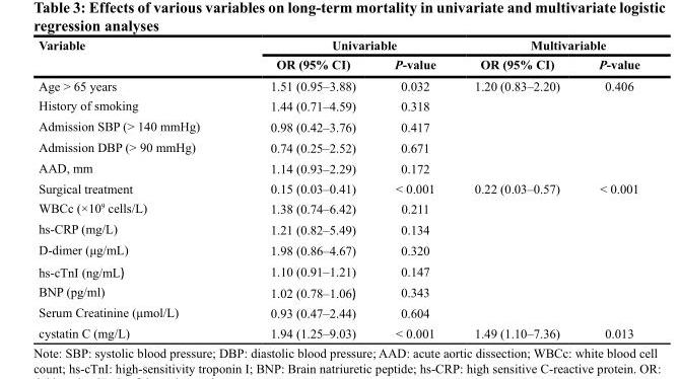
<table><thead><tr><td rowspan="2">Variable</td><td colspan="2">Univariable</td><td colspan="2">Multivariable</td></tr><tr><td>OR (95% CI)</td><td>P-value</td><td>OR (95% CI)</td><td>P-value</td></tr></thead><tbody><tr><td>Age &gt; 65 years</td><td>1.51 (0.95–3.88)</td><td>0.032</td><td>1.20 (0.83–2.20)</td><td>0.406</td></tr><tr><td>History of smoking</td><td>1.44 (0.71–4.59)</td><td>0.318</td><td></td><td></td></tr><tr><td>Admission SBP (&gt; 140 mmHg)</td><td>0.98 (0.42–3.76)</td><td>0.417</td><td></td><td></td></tr><tr><td>Admission DBP (&gt; 90 mmHg)</td><td>0.74 (0.25–2.52)</td><td>0.671</td><td></td><td></td></tr><tr><td>AAD, mm</td><td>1.14 (0.93–2.29)</td><td>0.172</td><td></td><td></td></tr><tr><td>Surgical treatment</td><td>0.15 (0.03–0.41)</td><td>&lt; 0.001</td><td>0.22 (0.03–0.57)</td><td>&lt; 0.001</td></tr><tr><td>WBCc (×10<sup>9</sup> cells/L)</td><td>1.38 (0.74–6.42)</td><td>0.211</td><td></td><td></td></tr><tr><td>hs-CRP (mg/L)</td><td>1.21 (0.82–5.49)</td><td>0.134</td><td></td><td></td></tr><tr><td>D-dimer (μg/mL)</td><td>1.98 (0.86–4.67)</td><td>0.320</td><td></td><td></td></tr><tr><td>hs-cTnI (ng/mL)</td><td>1.10 (0.91–1.21)</td><td>0.147</td><td></td><td></td></tr><tr><td>BNP (pg/ml)</td><td>1.02 (0.78–1.06)</td><td>0.343</td><td></td><td></td></tr><tr><td>Serum Creatinine (μmol/L)</td><td>0.93 (0.47–2.44)</td><td>0.604</td><td></td><td></td></tr><tr><td>cystatin C (mg/L)</td><td>1.94 (1.25–9.03)</td><td>&lt; 0.001</td><td>1.49 (1.10–7.36)</td><td>0.013</td></tr></tbody></table>